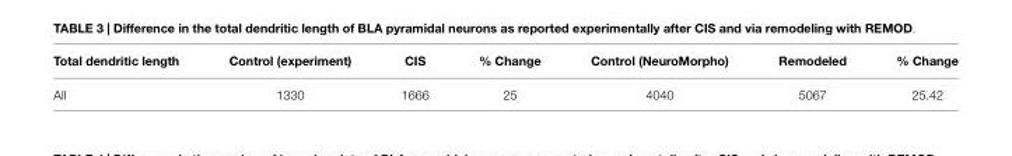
<table><thead><tr><td>Total dendritic length</td><td>Control (experiment)</td><td>CIS</td><td>% Change</td><td>Control (NeuroMorpho)</td><td>Remodeled</td><td>% Change</td></tr></thead><tbody><tr><td>All</td><td>1330</td><td>1666</td><td>25</td><td>4040</td><td>5067</td><td>25.42</td></tr></tbody></table>